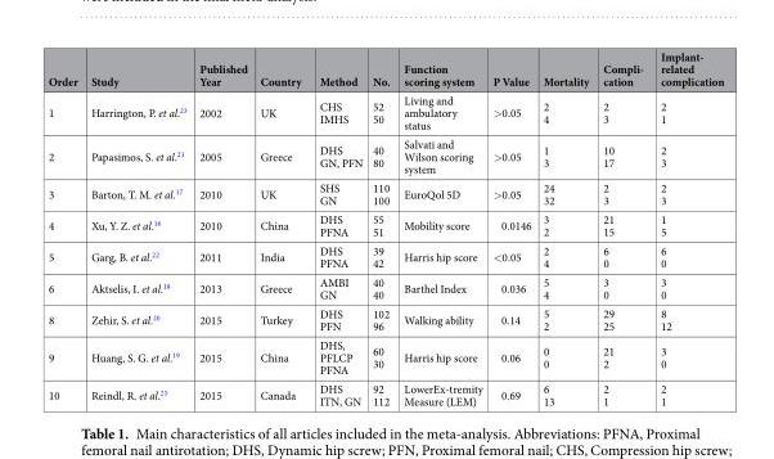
<table><thead><tr><td>Order</td><td>Study</td><td>Published Year</td><td>Country</td><td>Method</td><td>No.</td><td>Function scoring system</td><td>P Value</td><td>Mortality</td><td>Compli- cation</td><td>Implant- related complication</td></tr></thead><tbody><tr><td>1</td><td>Harrington, P. et al.<sup>23</sup></td><td>2002</td><td>UK</td><td>CHS IMHS</td><td>52 50</td><td>Living and ambulatory status</td><td>&gt;0.05</td><td>2 4</td><td>2 3</td><td>2 1</td></tr><tr><td>2</td><td>Papasimos, S. et al.<sup>21</sup></td><td>2005</td><td>Greece</td><td>DHS GN, PFN</td><td>40 80</td><td>Salvati and Wilson scoring system</td><td>&gt;0.05</td><td>1 3</td><td>10 17</td><td>2 3</td></tr><tr><td>3</td><td>Barton, T. M. et al.<sup>17</sup></td><td>2010</td><td>UK</td><td>SHS GN</td><td>110 100</td><td>EuroQol 5D</td><td>&gt;0.05</td><td>24 32</td><td>2 3</td><td>2 3</td></tr><tr><td>4</td><td>Xu, Y. Z. et al.<sup>16</sup></td><td>2010</td><td>China</td><td>DHS PFNA</td><td>55 51</td><td>Mobility score</td><td>0.0146</td><td>3 2</td><td>21 15</td><td>1 5</td></tr><tr><td>5</td><td>Garg, B. et al.<sup>22</sup></td><td>2011</td><td>India</td><td>DHS PFNA</td><td>39 42</td><td>Harris hip score</td><td>&lt;0.05</td><td>2 4</td><td>6 0</td><td>6 0</td></tr><tr><td>6</td><td>Aktselis, I. et al.<sup>18</sup></td><td>2013</td><td>Greece</td><td>AMBI GN</td><td>40 40</td><td>Barthel Index</td><td>0.036</td><td>5 4</td><td>3 0</td><td>3 0</td></tr><tr><td>8</td><td>Zehir, S. et al.<sup>20</sup></td><td>2015</td><td>Turkey</td><td>DHS PFN</td><td>102 96</td><td>Walking ability</td><td>0.14</td><td>5 2</td><td>29 25</td><td>8 12</td></tr><tr><td>9</td><td>Huang, S. G. et al.<sup>19</sup></td><td>2015</td><td>China</td><td>DHS, PFLCP PFNA</td><td>60 30</td><td>Harris hip score</td><td>0.06</td><td>0 0</td><td>21 2</td><td>3 0</td></tr><tr><td>10</td><td>Reindl, R. et al.<sup>25</sup></td><td>2015</td><td>Canada</td><td>DHS ITN, GN</td><td>92 112</td><td>LowerEx-tremity Measure (LEM)</td><td>0.69</td><td>6 13</td><td>2 1</td><td>2 1</td></tr></tbody></table>